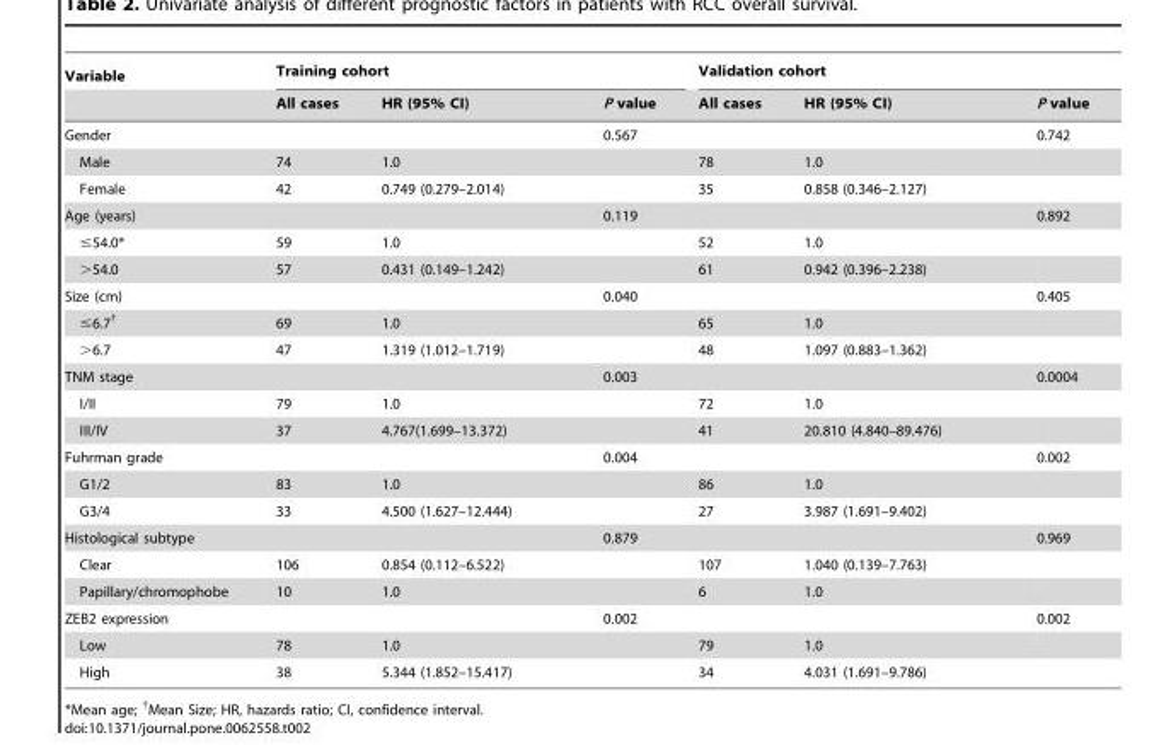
<table><thead><tr><td rowspan="2">Variable</td><td colspan="3">Training cohort</td><td colspan="3">Validation cohort</td></tr><tr><td>All cases</td><td>HR (95% CI)</td><td>P value</td><td>All cases</td><td>HR (95% CI)</td><td>P value</td></tr></thead><tbody><tr><td>Gender</td><td></td><td></td><td>0.567</td><td></td><td></td><td>0.742</td></tr><tr><td>Male</td><td>74</td><td>1.0</td><td></td><td>78</td><td>1.0</td><td></td></tr><tr><td>Female</td><td>42</td><td>0.749 (0.279–2.014)</td><td></td><td>35</td><td>0.858 (0.346–2.127)</td><td></td></tr><tr><td>Age (years)</td><td></td><td></td><td>0.119</td><td></td><td></td><td>0.892</td></tr><tr><td>≤54.0*</td><td>59</td><td>1.0</td><td></td><td>52</td><td>1.0</td><td></td></tr><tr><td>&gt;54.0</td><td>57</td><td>0.431 (0.149–1.242)</td><td></td><td>61</td><td>0.942 (0.396–2.238)</td><td></td></tr><tr><td>Size (cm)</td><td></td><td></td><td>0.040</td><td></td><td></td><td>0.405</td></tr><tr><td>≤6.7<sup>†</sup></td><td>69</td><td>1.0</td><td></td><td>65</td><td>1.0</td><td></td></tr><tr><td>&gt;6.7</td><td>47</td><td>1.319 (1.012–1.719)</td><td></td><td>48</td><td>1.097 (0.883–1.362)</td><td></td></tr><tr><td>TNM stage</td><td></td><td></td><td>0.003</td><td></td><td></td><td>0.0004</td></tr><tr><td>I/II</td><td>79</td><td>1.0</td><td></td><td>72</td><td>1.0</td><td></td></tr><tr><td>III/IV</td><td>37</td><td>4.767(1.699–13.372)</td><td></td><td>41</td><td>20.810 (4.840–89.476)</td><td></td></tr><tr><td>Fuhrman grade</td><td></td><td></td><td>0.004</td><td></td><td></td><td>0.002</td></tr><tr><td>G1/2</td><td>83</td><td>1.0</td><td></td><td>86</td><td>1.0</td><td></td></tr><tr><td>G3/4</td><td>33</td><td>4.500 (1.627–12.444)</td><td></td><td>27</td><td>3.987 (1.691–9.402)</td><td></td></tr><tr><td>Histological subtype</td><td></td><td></td><td>0.879</td><td></td><td></td><td>0.969</td></tr><tr><td>Clear</td><td>106</td><td>0.854 (0.112–6.522)</td><td></td><td>107</td><td>1.040 (0.139–7.763)</td><td></td></tr><tr><td>Papillary/chromophobe</td><td>10</td><td>1.0</td><td></td><td>6</td><td>1.0</td><td></td></tr><tr><td>ZEB2 expression</td><td></td><td></td><td>0.002</td><td></td><td></td><td>0.002</td></tr><tr><td>Low</td><td>78</td><td>1.0</td><td></td><td>79</td><td>1.0</td><td></td></tr><tr><td>High</td><td>38</td><td>5.344 (1.852–15.417)</td><td></td><td>34</td><td>4.031 (1.691–9.786)</td><td></td></tr></tbody></table>